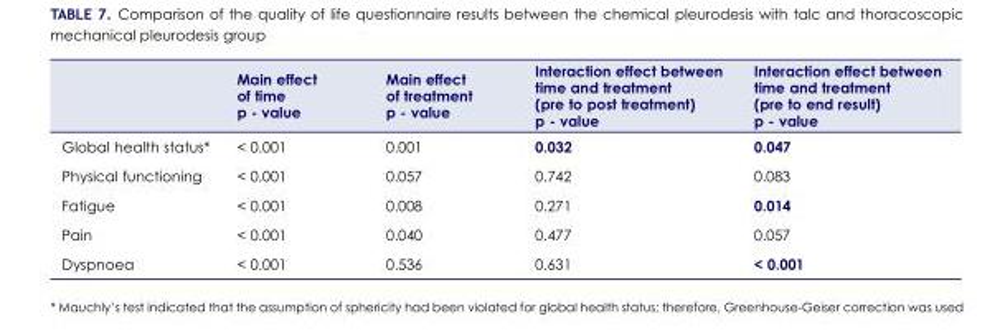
<table><thead><tr><td></td><td>Main effect of time p - value</td><td>Main effect of treatment p - value</td><td>Interaction effect between time and treatment (pre to post treatment) p - value</td><td>Interaction effect between time and treatment (pre to end result) p - value</td></tr></thead><tbody><tr><td>Global health status*</td><td>&lt; 0.001</td><td>0.001</td><td>0.032</td><td>0.047</td></tr><tr><td>Physical functioning</td><td>&lt; 0.001</td><td>0.057</td><td>0.742</td><td>0.083</td></tr><tr><td>Fatigue</td><td>&lt; 0.001</td><td>0.008</td><td>0.271</td><td>0.014</td></tr><tr><td>Pain</td><td>&lt; 0.001</td><td>0.040</td><td>0.477</td><td>0.057</td></tr><tr><td>Dyspnoea</td><td>&lt; 0.001</td><td>0.536</td><td>0.631</td><td>&lt; 0.001</td></tr></tbody></table>